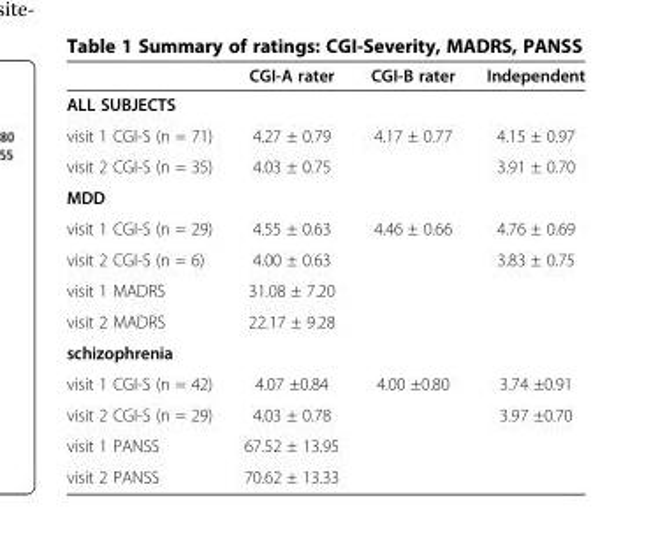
<table><thead><tr><td></td><td>CGI-A rater</td><td>CGI-B rater</td><td>Independent</td></tr></thead><tbody><tr><td colspan="4">ALL SUBJECTS</td></tr><tr><td>visit 1 CGI-S (n = 71)</td><td>4.27 ± 0.79</td><td>4.17 ± 0.77</td><td>4.15 ± 0.97</td></tr><tr><td>visit 2 CGI-S (n = 35)</td><td>4.03 ± 0.75</td><td></td><td>3.91 ± 0.70</td></tr><tr><td colspan="4">MDD</td></tr><tr><td>visit 1 CGI-S (n = 29)</td><td>4.55 ± 0.63</td><td>4.46 ± 0.66</td><td>4.76 ± 0.69</td></tr><tr><td>visit 2 CGI-S (n = 6)</td><td>4.00 ± 0.63</td><td></td><td>3.83 ± 0.75</td></tr><tr><td>visit 1 MADRS</td><td>31.08 ± 7.20</td><td></td><td></td></tr><tr><td>visit 2 MADRS</td><td>22.17 ± 9.28</td><td></td><td></td></tr><tr><td colspan="4">schizophrenia</td></tr><tr><td>visit 1 CGI-S (n = 42)</td><td>4.07 ±0.84</td><td>4.00 ±0.80</td><td>3.74 ±0.91</td></tr><tr><td>visit 2 CGI-S (n = 29)</td><td>4.03 ± 0.78</td><td></td><td>3.97 ±0.70</td></tr><tr><td>visit 1 PANSS</td><td>67.52 ± 13.95</td><td></td><td></td></tr><tr><td>visit 2 PANSS</td><td>70.62 ± 13.33</td><td></td><td></td></tr></tbody></table>